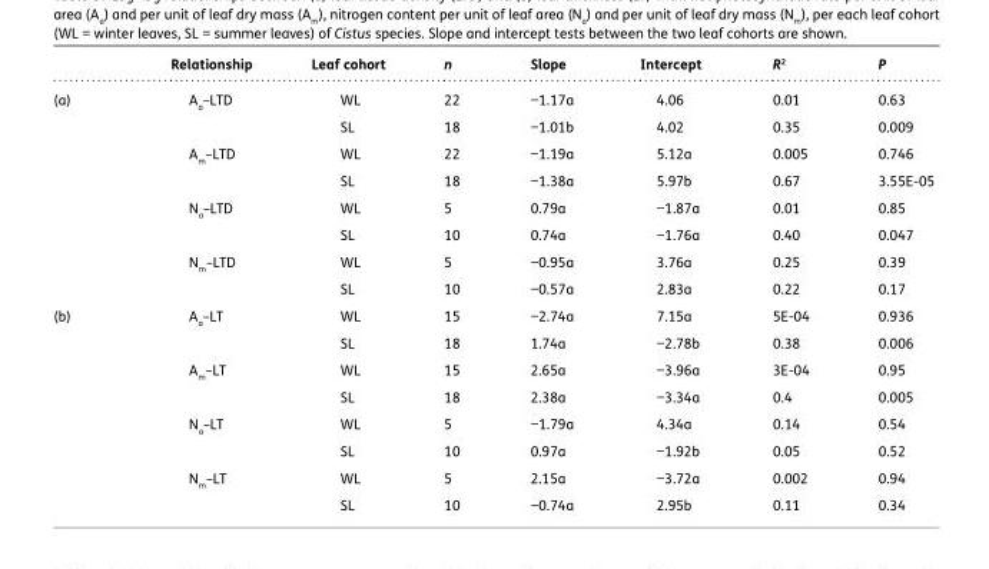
<table><thead><tr><td></td><td>Relationship</td><td>Leaf cohort</td><td>n</td><td>Slope</td><td>Intercept</td><td>R<sup>2</sup></td><td>P</td></tr></thead><tbody><tr><td rowspan="8">(a)</td><td rowspan="2">A<sub>a</sub>–LTD</td><td>WL</td><td>22</td><td>−1.17a</td><td>4.06</td><td>0.01</td><td>0.63</td></tr><tr><td>SL</td><td>18</td><td>−1.01b</td><td>4.02</td><td>0.35</td><td>0.009</td></tr><tr><td rowspan="2">A<sub>m</sub>–LTD</td><td>WL</td><td>22</td><td>−1.19a</td><td>5.12a</td><td>0.005</td><td>0.746</td></tr><tr><td>SL</td><td>18</td><td>−1.38a</td><td>5.97b</td><td>0.67</td><td>3.55E-05</td></tr><tr><td rowspan="2">N<sub>a</sub>–LTD</td><td>WL</td><td>5</td><td>0.79a</td><td>−1.87a</td><td>0.01</td><td>0.85</td></tr><tr><td>SL</td><td>10</td><td>0.74a</td><td>−1.76a</td><td>0.40</td><td>0.047</td></tr><tr><td rowspan="2">N<sub>m</sub>–LTD</td><td>WL</td><td>5</td><td>−0.95a</td><td>3.76a</td><td>0.25</td><td>0.39</td></tr><tr><td>SL</td><td>10</td><td>−0.57a</td><td>2.83a</td><td>0.22</td><td>0.17</td></tr><tr><td rowspan="8">(b)</td><td rowspan="2">A<sub>a</sub>–LT</td><td>WL</td><td>15</td><td>−2.74a</td><td>7.15a</td><td>5E-04</td><td>0.936</td></tr><tr><td>SL</td><td>18</td><td>1.74a</td><td>−2.78b</td><td>0.38</td><td>0.006</td></tr><tr><td rowspan="2">A<sub>m</sub>–LT</td><td>WL</td><td>15</td><td>2.65a</td><td>−3.96a</td><td>3E-04</td><td>0.95</td></tr><tr><td>SL</td><td>18</td><td>2.38a</td><td>−3.34a</td><td>0.4</td><td>0.005</td></tr><tr><td rowspan="2">N<sub>a</sub>–LT</td><td>WL</td><td>5</td><td>−1.79a</td><td>4.34a</td><td>0.14</td><td>0.54</td></tr><tr><td>SL</td><td>10</td><td>0.97a</td><td>−1.92b</td><td>0.05</td><td>0.52</td></tr><tr><td rowspan="2">N<sub>m</sub>–LT</td><td>WL</td><td>5</td><td>2.15a</td><td>−3.72a</td><td>0.002</td><td>0.94</td></tr><tr><td>SL</td><td>10</td><td>−0.74a</td><td>2.95b</td><td>0.11</td><td>0.34</td></tr></tbody></table>